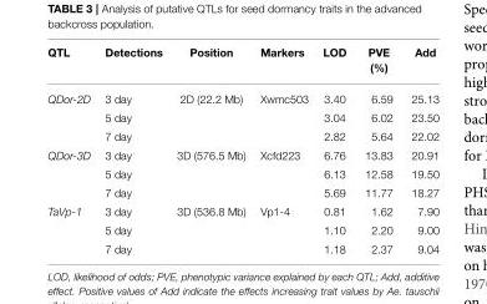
<table><thead><tr><td>QTL</td><td>Detections</td><td>Position</td><td>Markers</td><td>LOD</td><td>PVE (%)</td><td>Add</td></tr></thead><tbody><tr><td rowspan="3">QDor-2D</td><td>3 day</td><td>2D (22.2 Mb)</td><td>Xwmc503</td><td>3.40</td><td>6.59</td><td>25.13</td></tr><tr><td>5 day</td><td></td><td></td><td>3.04</td><td>6.02</td><td>23.50</td></tr><tr><td>7 day</td><td></td><td></td><td>2.82</td><td>5.64</td><td>22.02</td></tr><tr><td rowspan="3">QDor-3D</td><td>3 day</td><td>3D (576.5 Mb)</td><td>Xcfd223</td><td>6.76</td><td>13.83</td><td>20.91</td></tr><tr><td>5 day</td><td></td><td></td><td>6.13</td><td>12.58</td><td>19.50</td></tr><tr><td>7 day</td><td></td><td></td><td>5.69</td><td>11.77</td><td>18.27</td></tr><tr><td rowspan="3">TaVp-1</td><td>3 day</td><td>3D (536.8 Mb)</td><td>Vp1-4</td><td>0.81</td><td>1.62</td><td>7.90</td></tr><tr><td>5 day</td><td></td><td></td><td>1.10</td><td>2.20</td><td>9.00</td></tr><tr><td>7 day</td><td></td><td></td><td>1.18</td><td>2.37</td><td>9.04</td></tr></tbody></table>